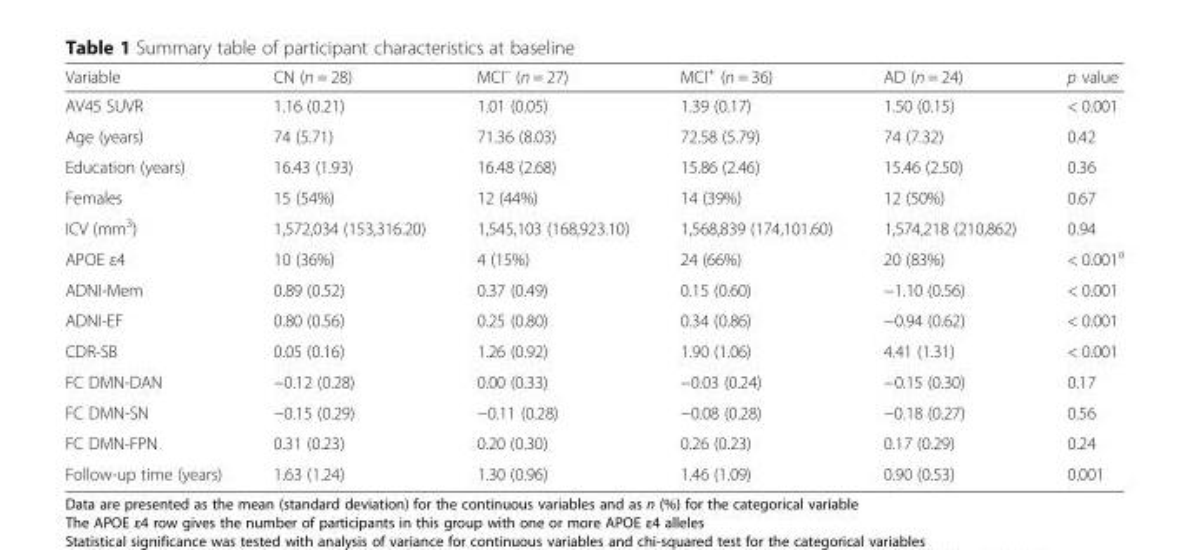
<table><thead><tr><td>Variable</td><td>CN (n = 28)</td><td>MCI<sup>–</sup> (n = 27)</td><td>MCI<sup>+</sup> (n = 36)</td><td>AD (n = 24)</td><td>p value</td></tr></thead><tbody><tr><td>AV45 SUVR</td><td>1.16 (0.21)</td><td>1.01 (0.05)</td><td>1.39 (0.17)</td><td>1.50 (0.15)</td><td>&lt; 0.001</td></tr><tr><td>Age (years)</td><td>74 (5.71)</td><td>71.36 (8.03)</td><td>72.58 (5.79)</td><td>74 (7.32)</td><td>0.42</td></tr><tr><td>Education (years)</td><td>16.43 (1.93)</td><td>16.48 (2.68)</td><td>15.86 (2.46)</td><td>15.46 (2.50)</td><td>0.36</td></tr><tr><td>Females</td><td>15 (54%)</td><td>12 (44%)</td><td>14 (39%)</td><td>12 (50%)</td><td>0.67</td></tr><tr><td>ICV (mm<sup>3</sup>)</td><td>1,572,034 (153,316.20)</td><td>1,545,103 (168,923.10)</td><td>1,568,839 (174,101.60)</td><td>1,574,218 (210,862)</td><td>0.94</td></tr><tr><td>APOE ε4</td><td>10 (36%)</td><td>4 (15%)</td><td>24 (66%)</td><td>20 (83%)</td><td>&lt; 0.001<sup>a</sup></td></tr><tr><td>ADNI-Mem</td><td>0.89 (0.52)</td><td>0.37 (0.49)</td><td>0.15 (0.60)</td><td>−1.10 (0.56)</td><td>&lt; 0.001</td></tr><tr><td>ADNI-EF</td><td>0.80 (0.56)</td><td>0.25 (0.80)</td><td>0.34 (0.86)</td><td>−0.94 (0.62)</td><td>&lt; 0.001</td></tr><tr><td>CDR-SB</td><td>0.05 (0.16)</td><td>1.26 (0.92)</td><td>1.90 (1.06)</td><td>4.41 (1.31)</td><td>&lt; 0.001</td></tr><tr><td>FC DMN-DAN</td><td>−0.12 (0.28)</td><td>0.00 (0.33)</td><td>−0.03 (0.24)</td><td>−0.15 (0.30)</td><td>0.17</td></tr><tr><td>FC DMN-SN</td><td>−0.15 (0.29)</td><td>−0.11 (0.28)</td><td>−0.08 (0.28)</td><td>−0.18 (0.27)</td><td>0.56</td></tr><tr><td>FC DMN-FPN</td><td>0.31 (0.23)</td><td>0.20 (0.30)</td><td>0.26 (0.23)</td><td>0.17 (0.29)</td><td>0.24</td></tr><tr><td>Follow-up time (years)</td><td>1.63 (1.24)</td><td>1.30 (0.96)</td><td>1.46 (1.09)</td><td>0.90 (0.53)</td><td>0.001</td></tr></tbody></table>